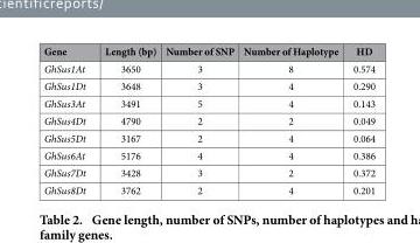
<table><thead><tr><td>Gene</td><td>Length (bp)</td><td>Number of SNP</td><td>Number of Haplotype</td><td>HD</td></tr></thead><tbody><tr><td>GhSus1At</td><td>3650</td><td>3</td><td>8</td><td>0.574</td></tr><tr><td>GhSus1Dt</td><td>3648</td><td>3</td><td>4</td><td>0.290</td></tr><tr><td>GhSus3At</td><td>3491</td><td>5</td><td>4</td><td>0.143</td></tr><tr><td>GhSus4Dt</td><td>4790</td><td>2</td><td>2</td><td>0.049</td></tr><tr><td>GhSus5Dt</td><td>3167</td><td>2</td><td>4</td><td>0.064</td></tr><tr><td>GhSus6At</td><td>5176</td><td>4</td><td>4</td><td>0.386</td></tr><tr><td>GhSus7Dt</td><td>3428</td><td>3</td><td>2</td><td>0.372</td></tr><tr><td>GhSus8Dt</td><td>3762</td><td>2</td><td>4</td><td>0.201</td></tr></tbody></table>